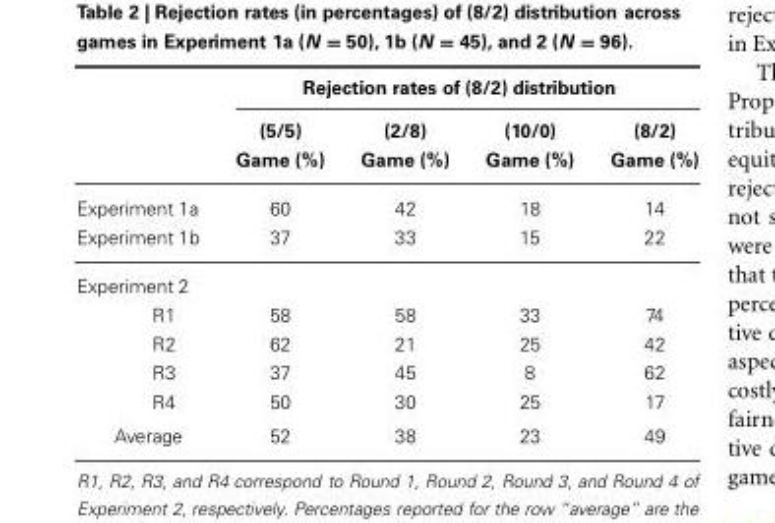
<table><thead><tr><td rowspan="3"></td><td colspan="4">Rejection rates of (8/2) distribution</td></tr><tr><td rowspan="2">(5/5) Game (%)</td><td rowspan="2">(2/8) Game (%)</td><td rowspan="2">(10/0) Game (%)</td><td rowspan="2">(8/2) Game (%)</td></tr><tr></tr></thead><tbody><tr><td>Experiment 1a</td><td>60</td><td>42</td><td>18</td><td>14</td></tr><tr><td>Experiment 1b</td><td>37</td><td>33</td><td>15</td><td>22</td></tr><tr><td colspan="5">Experiment 2</td></tr><tr><td>R1</td><td>58</td><td>58</td><td>33</td><td>74</td></tr><tr><td>R2</td><td>62</td><td>21</td><td>25</td><td>42</td></tr><tr><td>R3</td><td>37</td><td>45</td><td>8</td><td>62</td></tr><tr><td>R4</td><td>50</td><td>30</td><td>25</td><td>17</td></tr><tr><td>Average</td><td>52</td><td>38</td><td>23</td><td>49</td></tr></tbody></table>